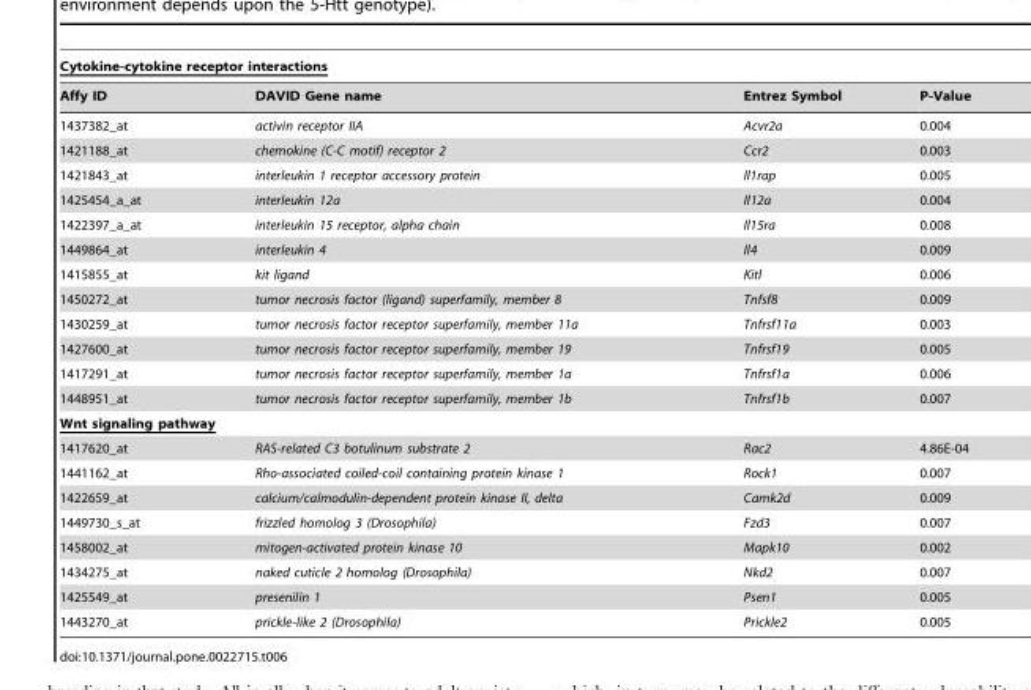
<table><thead><tr><td colspan="4">Cytokine-cytokine receptor interactions</td></tr><tr><td>Affy ID</td><td>DAVID Gene name</td><td>Entrez Symbol</td><td>P-Value</td></tr></thead><tbody><tr><td>1437382_at</td><td>activin receptor IIA</td><td>Acvr2a</td><td>0.004</td></tr><tr><td>1421188_at</td><td>chemokine (C-C motif) receptor 2</td><td>Ccr2</td><td>0.003</td></tr><tr><td>1421843_at</td><td>interleukin 1 receptor accessory protein</td><td>Il1rap</td><td>0.005</td></tr><tr><td>1425454_a_at</td><td>interleukin 12a</td><td>Il12a</td><td>0.004</td></tr><tr><td>1422397_a_at</td><td>interleukin 15 receptor, alpha chain</td><td>Il15ra</td><td>0.008</td></tr><tr><td>1449864_at</td><td>interleukin 4</td><td>Il4</td><td>0.009</td></tr><tr><td>1415855_at</td><td>kit ligand</td><td>Kitl</td><td>0.006</td></tr><tr><td>1450272_at</td><td>tumor necrosis factor (ligand) superfamily, member 8</td><td>Tnfsf8</td><td>0.009</td></tr><tr><td>1430259_at</td><td>tumor necrosis factor receptor superfamily, member 11a</td><td>Tnfrsf11a</td><td>0.003</td></tr><tr><td>1427600_at</td><td>tumor necrosis factor receptor superfamily, member 19</td><td>Tnfrsf19</td><td>0.005</td></tr><tr><td>1417291_at</td><td>tumor necrosis factor receptor superfamily, member 1a</td><td>Tnfrsf1a</td><td>0.006</td></tr><tr><td>1448951_at</td><td>tumor necrosis factor receptor superfamily, member 1b</td><td>Tnfrsf1b</td><td>0.007</td></tr><tr><td colspan="4">Wnt signaling pathway</td></tr><tr><td>1417620_at</td><td>RAS-related C3 botulinum substrate 2</td><td>Rac2</td><td>4.86E-04</td></tr><tr><td>1441162_at</td><td>Rho-associated coiled-coil containing protein kinase 1</td><td>Rock1</td><td>0.007</td></tr><tr><td>1422659_at</td><td>calcium/calmodulin-dependent protein kinase II, delta</td><td>Camk2d</td><td>0.009</td></tr><tr><td>1449730_s_at</td><td>frizzled homolog 3 (Drosophila)</td><td>Fzd3</td><td>0.007</td></tr><tr><td>1458002_at</td><td>mitogen-activated protein kinase 10</td><td>Mapk10</td><td>0.002</td></tr><tr><td>1434275_at</td><td>naked cuticle 2 homolog (Drosophila)</td><td>Nkd2</td><td>0.007</td></tr><tr><td>1425549_at</td><td>presenilin 1</td><td>Psen1</td><td>0.005</td></tr><tr><td>1443270_at</td><td>prickle-like 2 (Drosophila)</td><td>Prickle2</td><td>0.005</td></tr></tbody></table>